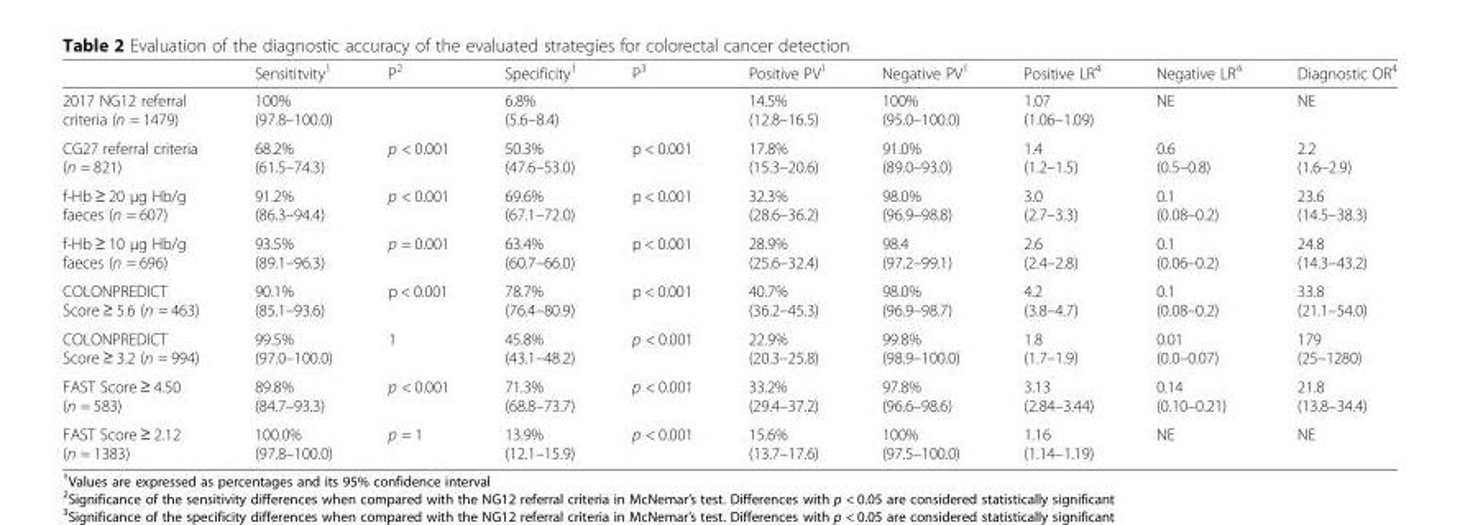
<table><thead><tr><td></td><td>Sensititvity<sup>1</sup></td><td>P<sup>2</sup></td><td>Specificity<sup>1</sup></td><td>P<sup>3</sup></td><td>Positive PV<sup>1</sup></td><td>Negative PV<sup>1</sup></td><td>Positive LR<sup>4</sup></td><td>Negative LR<sup>4</sup></td><td>Diagnostic OR<sup>4</sup></td></tr></thead><tbody><tr><td>2017 NG12 referral criteria (n = 1479)</td><td>100% (97.8–100.0)</td><td></td><td>6.8% (5.6–8.4)</td><td></td><td>14.5% (12.8–16.5)</td><td>100% (95.0–100.0)</td><td>1.07 (1.06–1.09)</td><td>NE</td><td>NE</td></tr><tr><td>CG27 referral criteria (n = 821)</td><td>68.2% (61.5–74.3)</td><td>p &lt; 0.001</td><td>50.3% (47.6–53.0)</td><td>p &lt; 0.001</td><td>17.8% (15.3–20.6)</td><td>91.0% (89.0–93.0)</td><td>1.4 (1.2–1.5)</td><td>0.6 (0.5–0.8)</td><td>2.2 (1.6–2.9)</td></tr><tr><td>f-Hb ≥ 20 μg Hb/g faeces (n = 607)</td><td>91.2% (86.3–94.4)</td><td>p &lt; 0.001</td><td>69.6% (67.1–72.0)</td><td>p &lt; 0.001</td><td>32.3% (28.6–36.2)</td><td>98.0% (96.9–98.8)</td><td>3.0 (2.7–3.3)</td><td>0.1 (0.08–0.2)</td><td>23.6 (14.5–38.3)</td></tr><tr><td>f-Hb ≥ 10 μg Hb/g faeces (n = 696)</td><td>93.5% (89.1–96.3)</td><td>p = 0.001</td><td>63.4% (60.7–66.0)</td><td>p &lt; 0.001</td><td>28.9% (25.6–32.4)</td><td>98.4 (97.2–99.1)</td><td>2.6 (2.4–2.8)</td><td>0.1 (0.06–0.2)</td><td>24.8 (14.3–43.2)</td></tr><tr><td>COLONPREDICT Score ≥ 5.6 (n = 463)</td><td>90.1% (85.1–93.6)</td><td>p &lt; 0.001</td><td>78.7% (76.4–80.9)</td><td>p &lt; 0.001</td><td>40.7% (36.2–45.3)</td><td>98.0% (96.9–98.7)</td><td>4.2 (3.8–4.7)</td><td>0.1 (0.08–0.2)</td><td>33.8 (21.1–54.0)</td></tr><tr><td>COLONPREDICT Score ≥ 3.2 (n = 994)</td><td>99.5% (97.0–100.0)</td><td>1</td><td>45.8% (43.1–48.2)</td><td>p &lt; 0.001</td><td>22.9% (20.3–25.8)</td><td>99.8% (98.9–100.0)</td><td>1.8 (1.7–1.9)</td><td>0.01 (0.0–0.07)</td><td>179 (25–1280)</td></tr><tr><td>FAST Score ≥ 4.50 (n = 583)</td><td>89.8% (84.7–93.3)</td><td>p &lt; 0.001</td><td>71.3% (68.8–73.7)</td><td>p &lt; 0.001</td><td>33.2% (29.4–37.2)</td><td>97.8% (96.6–98.6)</td><td>3.13 (2.84–3.44)</td><td>0.14 (0.10–0.21)</td><td>21.8 (13.8–34.4)</td></tr><tr><td>FAST Score ≥ 2.12 (n = 1383)</td><td>100.0% (97.8–100.0)</td><td>p = 1</td><td>13.9% (12.1–15.9)</td><td>p &lt; 0.001</td><td>15.6% (13.7–17.6)</td><td>100% (97.5–100.0)</td><td>1.16 (1.14–1.19)</td><td>NE</td><td>NE</td></tr></tbody></table>